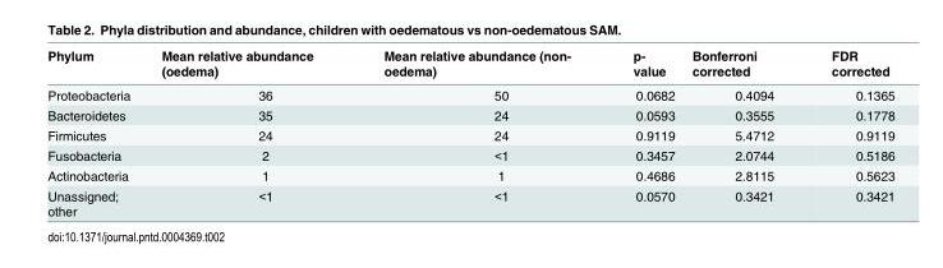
<table><thead><tr><td>Phylum</td><td>Mean relative abundance (oedema)</td><td>Mean relative abundance (non- oedema)</td><td>p- value</td><td>Bonferroni corrected</td><td>FDR corrected</td></tr></thead><tbody><tr><td>Proteobacteria</td><td>36</td><td>50</td><td>0.0682</td><td>0.4094</td><td>0.1365</td></tr><tr><td>Bacteroidetes</td><td>35</td><td>24</td><td>0.0593</td><td>0.3555</td><td>0.1778</td></tr><tr><td>Firmicutes</td><td>24</td><td>24</td><td>0.9119</td><td>5.4712</td><td>0.9119</td></tr><tr><td>Fusobacteria</td><td>2</td><td>&lt;1</td><td>0.3457</td><td>2.0744</td><td>0.5186</td></tr><tr><td>Actinobacteria</td><td>1</td><td>1</td><td>0.4686</td><td>2.8115</td><td>0.5623</td></tr><tr><td>Unassigned; other</td><td>&lt;1</td><td>&lt;1</td><td>0.0570</td><td>0.3421</td><td>0.3421</td></tr></tbody></table>